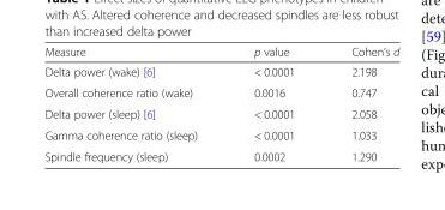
<table><thead><tr><td>Measure</td><td>p value</td><td>Cohen’s d</td></tr></thead><tbody><tr><td>Delta power (wake) [6]</td><td>&lt; 0.0001</td><td>2.198</td></tr><tr><td>Overall coherence ratio (wake)</td><td>0.0016</td><td>0.747</td></tr><tr><td>Delta power (sleep) [6]</td><td>&lt; 0.0001</td><td>2.058</td></tr><tr><td>Gamma coherence ratio (sleep)</td><td>&lt; 0.0001</td><td>1.033</td></tr><tr><td>Spindle frequency (sleep)</td><td>0.0002</td><td>1.290</td></tr></tbody></table>